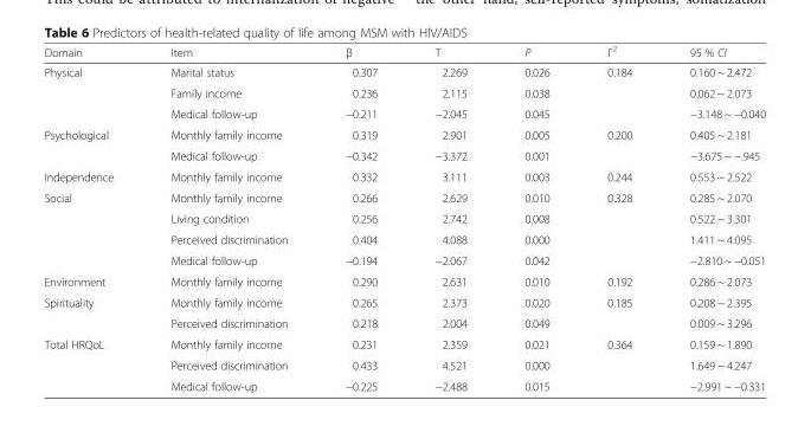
<table><thead><tr><td>Domain</td><td>Item</td><td>β</td><td>T</td><td>P</td><td>Γ<sup>2</sup></td><td>95 % CI</td></tr></thead><tbody><tr><td rowspan="3">Physical</td><td>Marital status</td><td>0.307</td><td>2.269</td><td>0.026</td><td rowspan="3">0.184</td><td>0.160 ~ 2.472</td></tr><tr><td>Family income</td><td>0.236</td><td>2.115</td><td>0.038</td><td>0.062 ~ 2.073</td></tr><tr><td>Medical follow-up</td><td>−0.211</td><td>−2.045</td><td>0.045</td><td>−3.148 ~ −0.040</td></tr><tr><td rowspan="2">Psychological</td><td>Monthly family income</td><td>0.319</td><td>2.901</td><td>0.005</td><td rowspan="2">0.200</td><td>0.405 ~ 2.181</td></tr><tr><td>Medical follow-up</td><td>−0.342</td><td>−3.372</td><td>0.001</td><td>−3.675 ~ −.945</td></tr><tr><td>Independence</td><td>Monthly family income</td><td>0.332</td><td>3.111</td><td>0.003</td><td>0.244</td><td>0.553 ~ 2.522</td></tr><tr><td rowspan="4">Social</td><td>Monthly family income</td><td>0.266</td><td>2.629</td><td>0.010</td><td rowspan="4">0.328</td><td>0.285 ~ 2.070</td></tr><tr><td>Living condition</td><td>0.256</td><td>2.742</td><td>0.008</td><td>0.522 ~ 3.301</td></tr><tr><td>Perceived discrimination</td><td>0.404</td><td>4.088</td><td>0.000</td><td>1.411 ~ 4.095</td></tr><tr><td>Medical follow-up</td><td>−0.194</td><td>−2.067</td><td>0.042</td><td>−2.810 ~ −0.051</td></tr><tr><td>Environment</td><td>Monthly family income</td><td>0.290</td><td>2.631</td><td>0.010</td><td>0.192</td><td>0.286 ~ 2.073</td></tr><tr><td rowspan="2">Spirituality</td><td>Monthly family income</td><td>0.265</td><td>2.373</td><td>0.020</td><td rowspan="2">0.185</td><td>0.208 ~ 2.395</td></tr><tr><td>Perceived discrimination</td><td>0.218</td><td>2.004</td><td>0.049</td><td>0.009 ~ 3.296</td></tr><tr><td rowspan="3">Total HRQoL</td><td>Monthly family income</td><td>0.231</td><td>2.359</td><td>0.021</td><td rowspan="3">0.364</td><td>0.159 ~ 1.890</td></tr><tr><td>Perceived discrimination</td><td>0.433</td><td>4.521</td><td>0.000</td><td>1.649 ~ 4.247</td></tr><tr><td>Medical follow-up</td><td>−0.225</td><td>−2.488</td><td>0.015</td><td>−2.991 ~ −0.331</td></tr></tbody></table>